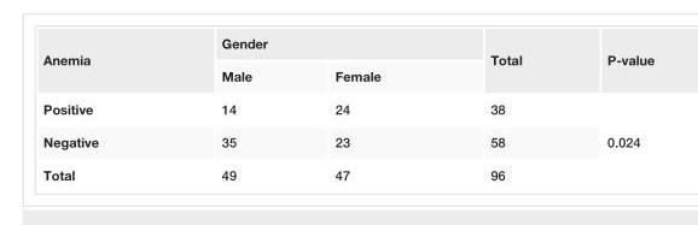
<table><tbody><tr><td rowspan="2">Anemia</td><td colspan="2">Gender</td><td rowspan="2">Total</td><td rowspan="2">P-value</td></tr><tr><td>Male</td><td>Female</td></tr><tr><td>Positive</td><td>14</td><td>24</td><td>38</td><td rowspan="3">0.024</td></tr><tr><td>Negative</td><td>35</td><td>23</td><td>58</td></tr><tr><td>Total</td><td>49</td><td>47</td><td>96</td></tr></tbody></table>